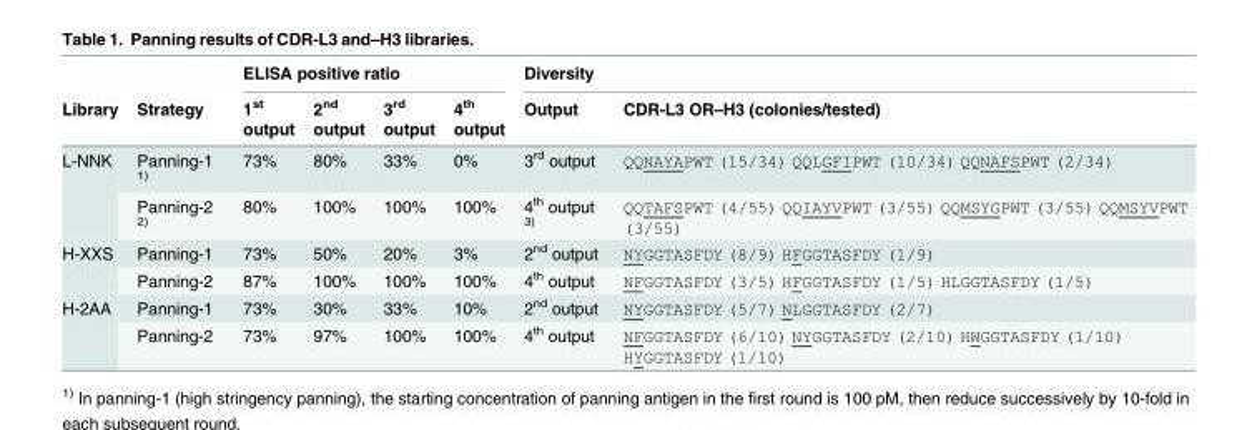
<table><thead><tr><td rowspan="2">Library</td><td rowspan="2">Strategy</td><td colspan="4">ELISA positive ratio</td><td colspan="2">Diversity</td></tr><tr><td>1<sup>st</sup> output</td><td>2<sup>nd</sup> output</td><td>3<sup>rd</sup> output</td><td>4<sup>th</sup> output</td><td>Output</td><td>CDR-L3 OR–H3 (colonies/tested)</td></tr></thead><tbody><tr><td rowspan="2">L-NNK</td><td>Panning-1 <sup>1)</sup></td><td>73%</td><td>80%</td><td>33%</td><td>0%</td><td>3<sup>rd</sup> output</td><td>QQNAYAPWT (15/34) QQLGFIPWT (10/34) QQNAFSPWT (2/34)</td></tr><tr><td>Panning-2 <sup>2)</sup></td><td>80%</td><td>100%</td><td>100%</td><td>100%</td><td>4<sup>th</sup> output <sup>3)</sup></td><td>QQTAFSPWT (4/55) QQIAYVPWT (3/55) QQMSYGPWT (3/55) QQMSYVPWT (3/55)</td></tr><tr><td rowspan="2">H-XXS</td><td>Panning-1</td><td>73%</td><td>50%</td><td>20%</td><td>3%</td><td>2<sup>nd</sup> output</td><td>NYGGTASFDY (8/9) HFGGTASFDY (1/9)</td></tr><tr><td>Panning-2</td><td>87%</td><td>100%</td><td>100%</td><td>100%</td><td>4<sup>th</sup> output</td><td>NFGGTASFDY (3/5) HFGGTASFDY (1/5) HLGGTASFDY (1/5)</td></tr><tr><td rowspan="2">H-2AA</td><td>Panning-1</td><td>73%</td><td>30%</td><td>33%</td><td>10%</td><td>2<sup>nd</sup> output</td><td>NYGGTASFDY (5/7) NLGGTASFDY (2/7)</td></tr><tr><td>Panning-2</td><td>73%</td><td>97%</td><td>100%</td><td>100%</td><td>4<sup>th</sup> output</td><td>NFGGTASFDY (6/10) NYGGTASFDY (2/10) HWGGTASFDY (1/10) HYGGTASFDY (1/10)</td></tr></tbody></table>